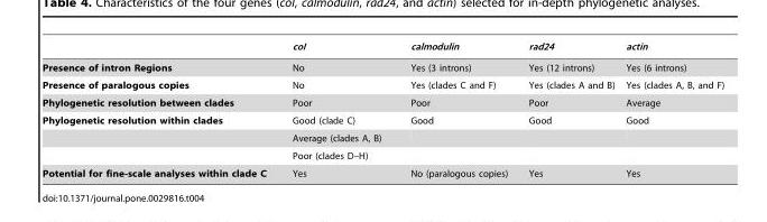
<table><thead><tr><td></td><td>coI</td><td>calmodulin</td><td>rad24</td><td>actin</td></tr></thead><tbody><tr><td>Presence of intron Regions</td><td>No</td><td>Yes (3 introns)</td><td>Yes (12 introns)</td><td>Yes (6 introns)</td></tr><tr><td>Presence of paralogous copies</td><td>No</td><td>Yes (clades C and F)</td><td>Yes (clades A and B)</td><td>Yes (clades A, B, and F)</td></tr><tr><td>Phylogenetic resolution between clades</td><td>Poor</td><td>Poor</td><td>Poor</td><td>Average</td></tr><tr><td rowspan="3">Phylogenetic resolution within clades</td><td>Good (clade C)</td><td>Good</td><td>Good</td><td>Good</td></tr><tr><td>Average (clades A, B)</td><td></td><td></td><td></td></tr><tr><td>Poor (clades D–H)</td><td></td><td></td><td></td></tr><tr><td>Potential for fine-scale analyses within clade C</td><td>Yes</td><td>No (paralogous copies)</td><td>Yes</td><td>Yes</td></tr></tbody></table>